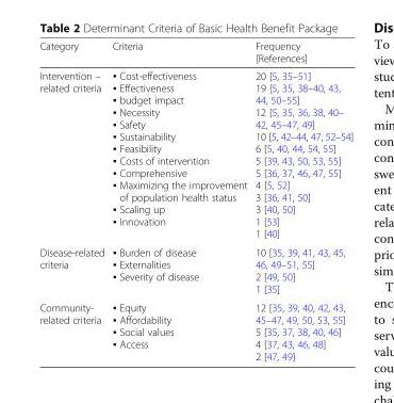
<table><thead><tr><td>Category</td><td>Criteria</td><td>Frequency [References]</td></tr></thead><tbody><tr><td>Intervention – related criteria</td><td>▪ Cost-effectiveness ▪ Effectiveness ▪ budget impact ▪ Necessity ▪ Safety ▪ Sustainability ▪ Feasibility ▪ Costs of intervention ▪ Comprehensive ▪ Maximizing the improvement of population health status ▪ Scaling up ▪ Innovation</td><td>20 [5, 35–51] 19 [5, 35, 38–40, 43, 44, 50–55] 12 [5, 35, 36, 38, 40– 42, 45–47, 49] 10 [5, 42–44, 47, 52–54] 6 [5, 40, 44, 54, 55] 5 [39, 43, 50, 53, 55] 5 [36, 37, 46, 47, 55] 4 [5, 52] 3 [36, 41, 50] 3 [40, 50] 1 [53] 1 [40]</td></tr><tr><td>Disease-related criteria</td><td>▪ Burden of disease ▪ Externalities ▪ Severity of disease</td><td>10 [35, 39, 41, 43, 45, 46, 49–51, 55] 2 [49, 50] 1 [35]</td></tr><tr><td>Community- related criteria</td><td>▪ Equity ▪ Affordability ▪ Social values ▪ Access</td><td>12 [35, 39, 40, 42, 43, 45–47, 49, 50, 53, 55] 5 [35, 37, 38, 40, 46] 4 [37, 43, 46, 48] 2 [47, 49]</td></tr></tbody></table>